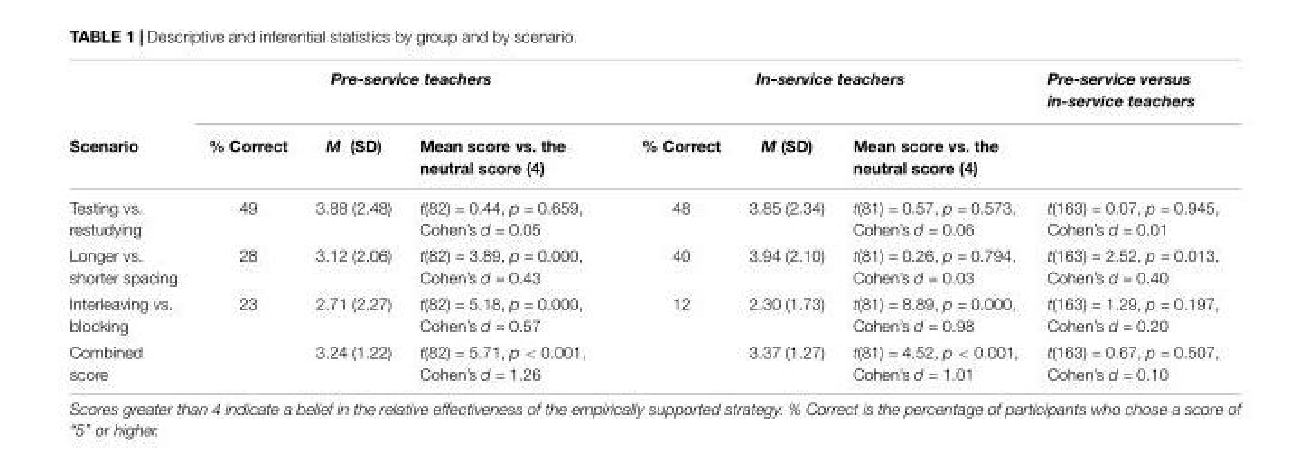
<table><thead><tr><td rowspan="2">Scenario</td><td colspan="3">Pre-service teachers</td><td colspan="3">In-service teachers</td><td rowspan="2">Pre-service versus in-service teachers</td></tr><tr><td>% Correct</td><td>M (SD)</td><td>Mean score vs. the neutral score (4)</td><td>% Correct</td><td>M (SD)</td><td>Mean score vs. the neutral score (4)</td></tr></thead><tbody><tr><td>Testing vs. restudying</td><td>49</td><td>3.88 (2.48)</td><td>t(82) = 0.44, p = 0.659, Cohen’s d = 0.05</td><td>48</td><td>3.85 (2.34)</td><td>t(81) = 0.57, p = 0.573, Cohen’s d = 0.06</td><td>t(163) = 0.07, p = 0.945, Cohen’s d = 0.01</td></tr><tr><td>Longer vs. shorter spacing</td><td>28</td><td>3.12 (2.06)</td><td>t(82) = 3.89, p = 0.000, Cohen’s d = 0.43</td><td>40</td><td>3.94 (2.10)</td><td>t(81) = 0.26, p = 0.794, Cohen’s d = 0.03</td><td>t(163) = 2.52, p = 0.013, Cohen’s d = 0.40</td></tr><tr><td>Interleaving vs. blocking</td><td>23</td><td>2.71 (2.27)</td><td>t(82) = 5.18, p = 0.000, Cohen’s d = 0.57</td><td>12</td><td>2.30 (1.73)</td><td>t(81) = 8.89, p = 0.000, Cohen’s d = 0.98</td><td>t(163) = 1.29, p = 0.197, Cohen’s d = 0.20</td></tr><tr><td>Combined score</td><td></td><td>3.24 (1.22)</td><td>t(82) = 5.71, p &lt; 0.001, Cohen’s d = 1.26</td><td></td><td>3.37 (1.27)</td><td>t(81) = 4.52, p &lt; 0.001, Cohen’s d = 1.01</td><td>t(163) = 0.67, p = 0.507, Cohen’s d = 0.10</td></tr></tbody></table>